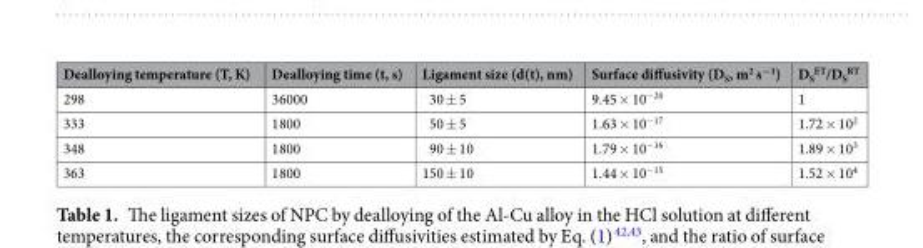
<table><thead><tr><td>Dealloying temperature (T, K)</td><td>Dealloying time (t, s)</td><td>Ligament size (d(t), nm)</td><td>Surface diffusivity (D<sub>S</sub>, m<sup>2</sup> s<sup>−1</sup>)</td><td>D<sub>S</sub> <sup>ET</sup>/D<sub>S</sub> <sup>RT</sup></td></tr></thead><tbody><tr><td>298</td><td>36000</td><td>30 ± 5</td><td>9.45 × 10<sup>−20</sup></td><td>1</td></tr><tr><td>333</td><td>1800</td><td>50 ± 5</td><td>1.63 × 10<sup>−17</sup></td><td>1.72 × 10<sup>2</sup></td></tr><tr><td>348</td><td>1800</td><td>90 ± 10</td><td>1.79 × 10<sup>−16</sup></td><td>1.89 × 10<sup>3</sup></td></tr><tr><td>363</td><td>1800</td><td>150 ± 10</td><td>1.44 × 10<sup>−15</sup></td><td>1.52 × 10<sup>4</sup></td></tr></tbody></table>